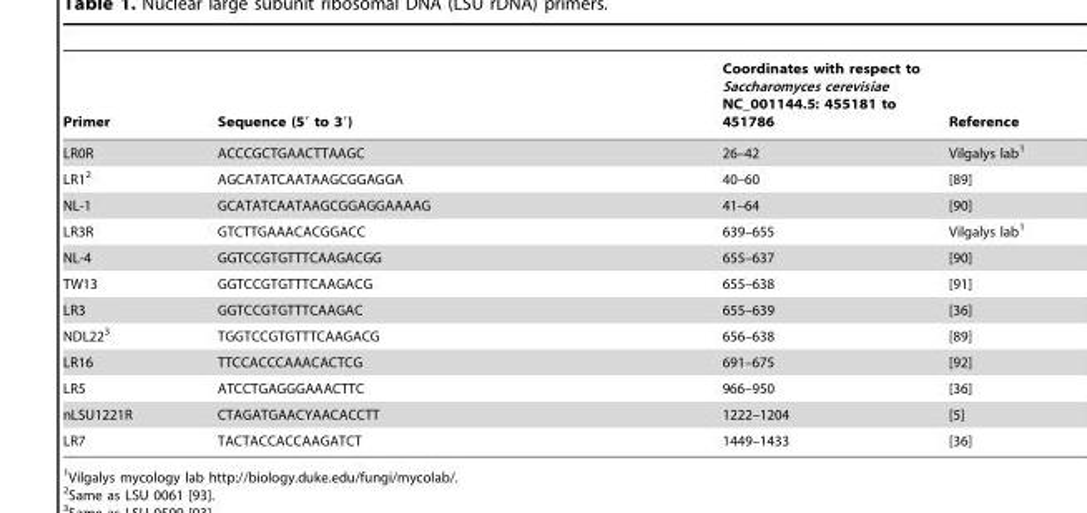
<table><thead><tr><td>Primer</td><td>Sequence (5′ to 3′)</td><td>Coordinates with respect to Saccharomyces cerevisiae NC_001144.5: 455181 to 451786</td><td>Reference</td></tr></thead><tbody><tr><td>LR0R</td><td>ACCCGCTGAACTTAAGC</td><td>26–42</td><td>Vilgalys lab<sup>1</sup></td></tr><tr><td>LR1<sup>2</sup></td><td>AGCATATCAATAAGCGGAGGA</td><td>40–60</td><td>[89]</td></tr><tr><td>NL-1</td><td>GCATATCAATAAGCGGAGGAAAAG</td><td>41–64</td><td>[90]</td></tr><tr><td>LR3R</td><td>GTCTTGAAACACGGACC</td><td>639–655</td><td>Vilgalys lab<sup>1</sup></td></tr><tr><td>NL-4</td><td>GGTCCGTGTTTCAAGACGG</td><td>655–637</td><td>[90]</td></tr><tr><td>TW13</td><td>GGTCCGTGTTTCAAGACG</td><td>655–638</td><td>[91]</td></tr><tr><td>LR3</td><td>GGTCCGTGTTTCAAGAC</td><td>655–639</td><td>[36]</td></tr><tr><td>NDL22<sup>3</sup></td><td>TGGTCCGTGTTTCAAGACG</td><td>656–638</td><td>[89]</td></tr><tr><td>LR16</td><td>TTCCACCCAAACACTCG</td><td>691–675</td><td>[92]</td></tr><tr><td>LR5</td><td>ATCCTGAGGGAAACTTC</td><td>966–950</td><td>[36]</td></tr><tr><td>nLSU1221R</td><td>CTAGATGAACYAACACCTT</td><td>1222–1204</td><td>[5]</td></tr><tr><td>LR7</td><td>TACTACCACCAAGATCT</td><td>1449–1433</td><td>[36]</td></tr></tbody></table>